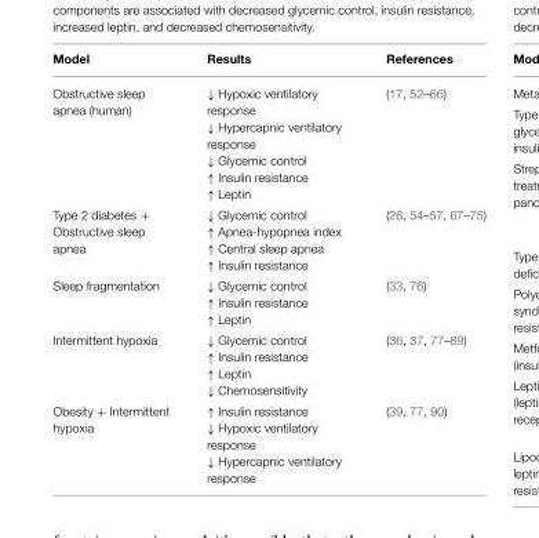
<table><thead><tr><td>Model</td><td>Results</td><td>References</td></tr></thead><tbody><tr><td>Obstructive sleep apnea (human)</td><td>↓ Hypoxic ventilatory response ↓ Hypercapnic ventilatory response ↓ Glycemic control ↑ Insulin resistance ↑ Leptin</td><td>(17, 52–66)</td></tr><tr><td>Type 2 diabetes + Obstructive sleep apnea</td><td>↓ Glycemic control ↑ Apnea-hypopnea index ↑ Central sleep apnea ↑ Insulin resistance</td><td>(26, 54–57, 67–75)</td></tr><tr><td>Sleep fragmentation</td><td>↓ Glycemic control ↑ Insulin resistance ↑ Leptin</td><td>(33, 76)</td></tr><tr><td>Intermittent hypoxia</td><td>↓ Glycemic control ↑ Insulin resistance ↑ Leptin ↓ Chemosensitivity</td><td>(36, 37, 77–89)</td></tr><tr><td>Obesity + Intermittent hypoxia</td><td>↑ Insulin resistance ↓ Hypoxic ventilatory response ↓ Hypercapnic ventilatory response</td><td>(39, 77, 90)</td></tr></tbody></table>